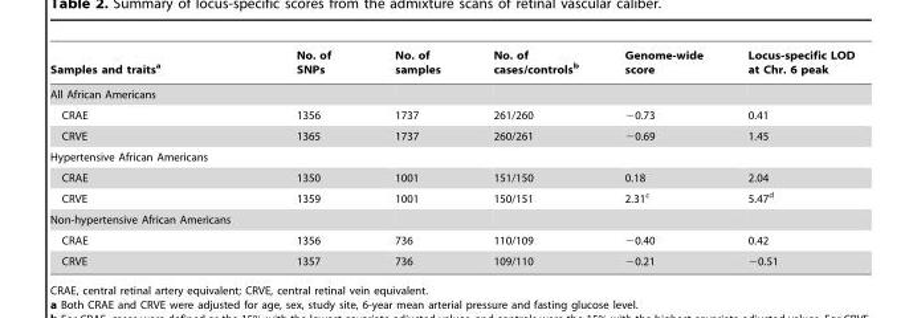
<table><thead><tr><td>Samples and traits<sup>a</sup></td><td>No. of SNPs</td><td>No. of samples</td><td>No. of cases/controls<sup>b</sup></td><td>Genome-wide score</td><td>Locus-specific LOD at Chr. 6 peak</td></tr></thead><tbody><tr><td colspan="6">All African Americans</td></tr><tr><td>CRAE</td><td>1356</td><td>1737</td><td>261/260</td><td>−0.73</td><td>0.41</td></tr><tr><td>CRVE</td><td>1365</td><td>1737</td><td>260/261</td><td>−0.69</td><td>1.45</td></tr><tr><td colspan="6">Hypertensive African Americans</td></tr><tr><td>CRAE</td><td>1350</td><td>1001</td><td>151/150</td><td>0.18</td><td>2.04</td></tr><tr><td>CRVE</td><td>1359</td><td>1001</td><td>150/151</td><td>2.31<sup>c</sup></td><td>5.47<sup>d</sup></td></tr><tr><td colspan="6">Non-hypertensive African Americans</td></tr><tr><td>CRAE</td><td>1356</td><td>736</td><td>110/109</td><td>−0.40</td><td>0.42</td></tr><tr><td>CRVE</td><td>1357</td><td>736</td><td>109/110</td><td>−0.21</td><td>−0.51</td></tr></tbody></table>